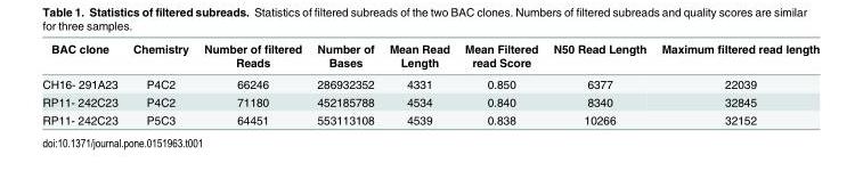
<table><thead><tr><td>BAC clone</td><td>Chemistry</td><td>Number of filtered Reads</td><td>Number of Bases</td><td>Mean Read Length</td><td>Mean Filtered read Score</td><td>N50 Read Length</td><td>Maximum filtered read length</td></tr></thead><tbody><tr><td>CH16- 291A23</td><td>P4C2</td><td>66246</td><td>286932352</td><td>4331</td><td>0.850</td><td>6377</td><td>22039</td></tr><tr><td>RP11- 242C23</td><td>P4C2</td><td>71180</td><td>452185788</td><td>4534</td><td>0.840</td><td>8340</td><td>32845</td></tr><tr><td>RP11- 242C23</td><td>P5C3</td><td>64451</td><td>553113108</td><td>4539</td><td>0.838</td><td>10266</td><td>32152</td></tr></tbody></table>